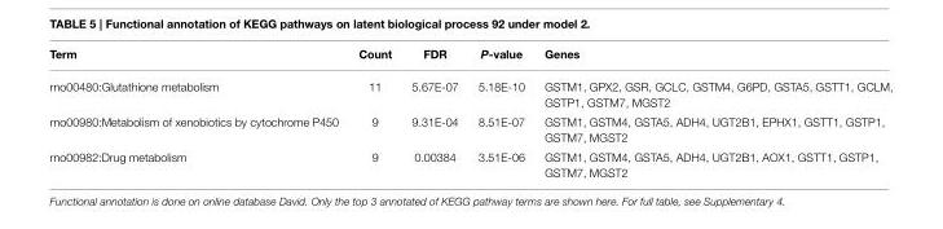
<table><thead><tr><td>Term</td><td>Count</td><td>FDR</td><td>P-value</td><td>Genes</td></tr></thead><tbody><tr><td>rno00480:Glutathione metabolism</td><td>11</td><td>5.67E-07</td><td>5.18E-10</td><td>GSTM1, GPX2, GSR, GCLC, GSTM4, G6PD, GSTA5, GSTT1, GCLM, GSTP1, GSTM7, MGST2</td></tr><tr><td>rno00980:Metabolism of xenobiotics by cytochrome P450</td><td>9</td><td>9.31E-04</td><td>8.51E-07</td><td>GSTM1, GSTM4, GSTA5, ADH4, UGT2B1, EPHX1, GSTT1, GSTP1, GSTM7, MGST2</td></tr><tr><td>rno00982:Drug metabolism</td><td>9</td><td>0.00384</td><td>3.51E-06</td><td>GSTM1, GSTM4, GSTA5, ADH4, UGT2B1, AOX1, GSTT1, GSTP1, GSTM7, MGST2</td></tr></tbody></table>